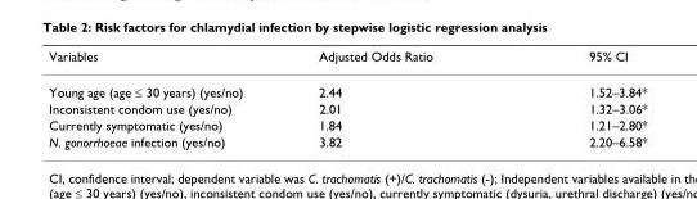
<table><thead><tr><td>Variables</td><td>Adjusted Odds Ratio</td><td>95% CI</td></tr></thead><tbody><tr><td>Young age (age ≤ 30 years) (yes/no)</td><td>2.44</td><td>1.52–3.84*</td></tr><tr><td>Inconsistent condom use (yes/no)</td><td>2.01</td><td>1.32–3.06*</td></tr><tr><td>Currently symptomatic (yes/no)</td><td>1.84</td><td>1.21–2.80*</td></tr><tr><td>N. gonorrhoeae infection (yes/no)</td><td>3.82</td><td>2.20–6.58*</td></tr></tbody></table>